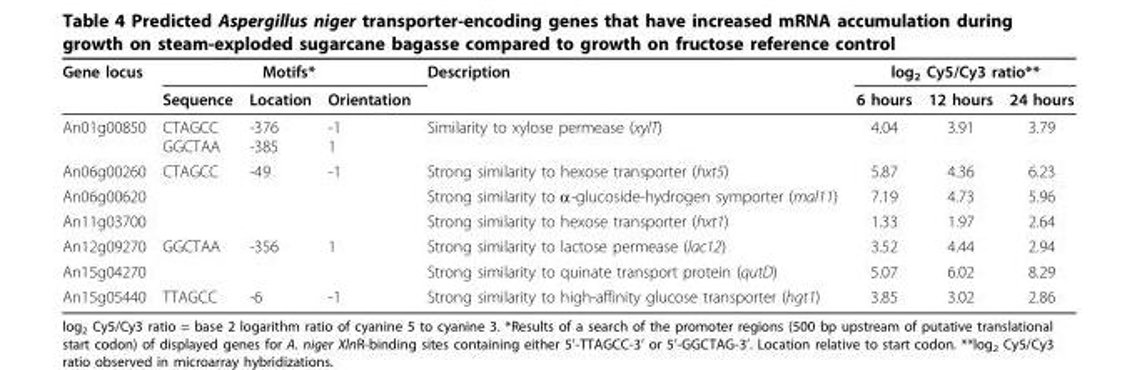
<table><thead><tr><td rowspan="2">Gene locus</td><td colspan="3">Motifs*</td><td rowspan="2">Description</td><td colspan="3">log<sub>2</sub> Cy5/Cy3 ratio**</td></tr><tr><td>Sequence</td><td>Location</td><td>Orientation</td><td>6 hours</td><td>12 hours</td><td>24 hours</td></tr></thead><tbody><tr><td>An01g00850</td><td>CTAGCC GGCTAA</td><td>-376 -385</td><td>-1 1</td><td>Similarity to xylose permease (xylT)</td><td>4.04</td><td>3.91</td><td>3.79</td></tr><tr><td>An06g00260</td><td>CTAGCC</td><td>-49</td><td>-1</td><td>Strong similarity to hexose transporter (hxt5)</td><td>5.87</td><td>4.36</td><td>6.23</td></tr><tr><td>An06g00620</td><td></td><td></td><td></td><td>Strong similarity to α-glucoside-hydrogen symporter (mal11)</td><td>7.19</td><td>4.73</td><td>5.96</td></tr><tr><td>An11g03700</td><td></td><td></td><td></td><td>Strong similarity to hexose transporter (hxt1)</td><td>1.33</td><td>1.97</td><td>2.64</td></tr><tr><td>An12g09270</td><td>GGCTAA</td><td>-356</td><td>1</td><td>Strong similarity to lactose permease (lac12)</td><td>3.52</td><td>4.44</td><td>2.94</td></tr><tr><td>An15g04270</td><td></td><td></td><td></td><td>Strong similarity to quinate transport protein (qutD)</td><td>5.07</td><td>6.02</td><td>8.29</td></tr><tr><td>An15g05440</td><td>TTAGCC</td><td>-6</td><td>-1</td><td>Strong similarity to high-affinity glucose transporter (hgt1)</td><td>3.85</td><td>3.02</td><td>2.86</td></tr></tbody></table>